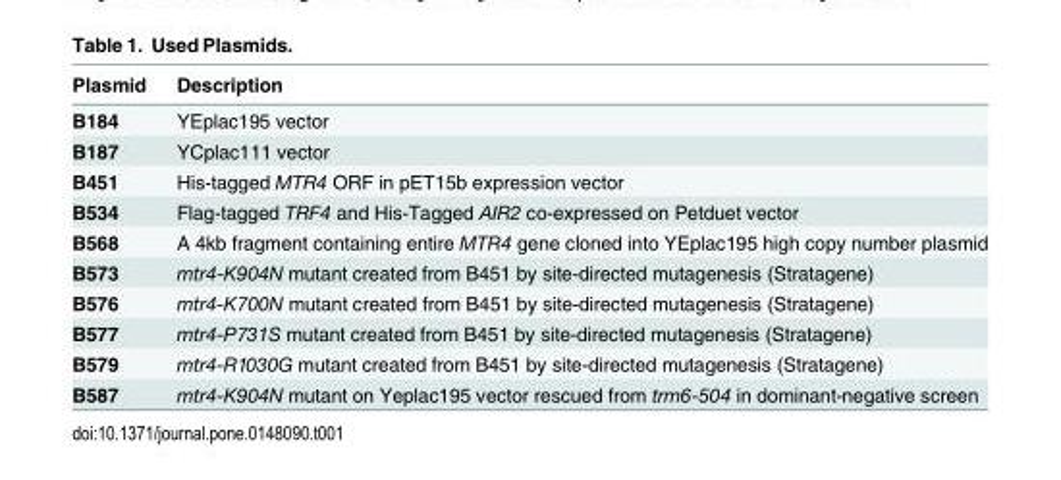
<table><thead><tr><td>Plasmid</td><td>Description</td></tr></thead><tbody><tr><td>B184</td><td>YEplac195 vector</td></tr><tr><td>B187</td><td>YCplac111 vector</td></tr><tr><td>B451</td><td>His-tagged MTR4 ORF in pET15b expression vector</td></tr><tr><td>B534</td><td>Flag-tagged TRF4 and His-Tagged AIR2 co-expressed on Petduet vector</td></tr><tr><td>B568</td><td>A 4kb fragment containing entire MTR4 gene cloned into YEplac195 high copy number plasmid</td></tr><tr><td>B573</td><td>mtr4-K904N mutant created from B451 by site-directed mutagenesis (Stratagene)</td></tr><tr><td>B576</td><td>mtr4-K700N mutant created from B451 by site-directed mutagenesis (Stratagene)</td></tr><tr><td>B577</td><td>mtr4-P731S mutant created from B451 by site-directed mutagenesis (Stratagene)</td></tr><tr><td>B579</td><td>mtr4-R1030G mutant created from B451 by site-directed mutagenesis (Stratagene)</td></tr><tr><td>B587</td><td>mtr4-K904N mutant on Yeplac195 vector rescued from trm6-504 in dominant-negative screen</td></tr></tbody></table>